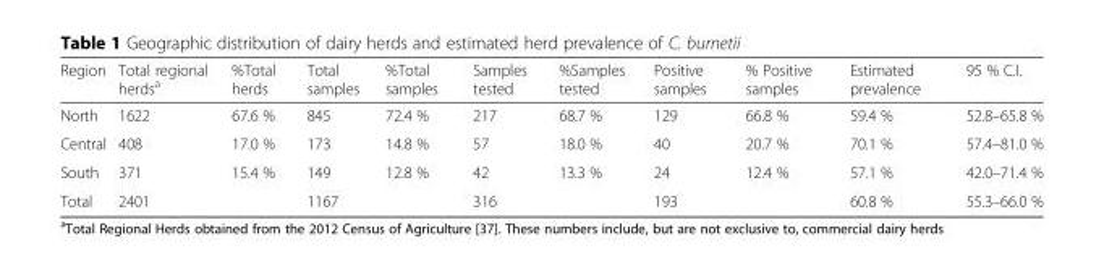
<table><thead><tr><td>Region</td><td>Total regional herds<sup>a</sup></td><td>%Total herds</td><td>Total samples</td><td>%Total samples</td><td>Samples tested</td><td>%Samples tested</td><td>Positive samples</td><td>% Positive samples</td><td>Estimated prevalence</td><td>95 % C.I.</td></tr></thead><tbody><tr><td>North</td><td>1622</td><td>67.6 %</td><td>845</td><td>72.4 %</td><td>217</td><td>68.7 %</td><td>129</td><td>66.8 %</td><td>59.4 %</td><td>52.8–65.8 %</td></tr><tr><td>Central</td><td>408</td><td>17.0 %</td><td>173</td><td>14.8 %</td><td>57</td><td>18.0 %</td><td>40</td><td>20.7 %</td><td>70.1 %</td><td>57.4–81.0 %</td></tr><tr><td>South</td><td>371</td><td>15.4 %</td><td>149</td><td>12.8 %</td><td>42</td><td>13.3 %</td><td>24</td><td>12.4 %</td><td>57.1 %</td><td>42.0–71.4 %</td></tr><tr><td>Total</td><td>2401</td><td></td><td>1167</td><td></td><td>316</td><td></td><td>193</td><td></td><td>60.8 %</td><td>55.3–66.0 %</td></tr></tbody></table>